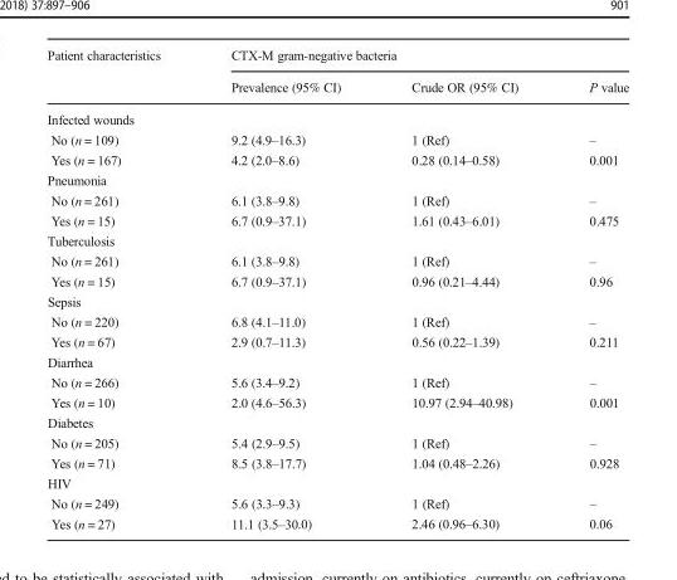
<table><thead><tr><td rowspan="2">Patient characteristics</td><td colspan="3">CTX-M gram-negative bacteria</td></tr><tr><td>Prevalence (95% CI)</td><td>Crude OR (95% CI)</td><td>P value</td></tr></thead><tbody><tr><td colspan="4">Infected wounds</td></tr><tr><td>No (n = 109)</td><td>9.2 (4.9–16.3)</td><td>1 (Ref)</td><td>–</td></tr><tr><td>Yes (n = 167)</td><td>4.2 (2.0–8.6)</td><td>0.28 (0.14–0.58)</td><td>0.001</td></tr><tr><td colspan="4">Pneumonia</td></tr><tr><td>No (n = 261)</td><td>6.1 (3.8–9.8)</td><td>1 (Ref)</td><td>–</td></tr><tr><td>Yes (n = 15)</td><td>6.7 (0.9–37.1)</td><td>1.61 (0.43–6.01)</td><td>0.475</td></tr><tr><td colspan="4">Tuberculosis</td></tr><tr><td>No (n = 261)</td><td>6.1 (3.8–9.8)</td><td>1 (Ref)</td><td>–</td></tr><tr><td>Yes (n = 15)</td><td>6.7 (0.9–37.1)</td><td>0.96 (0.21–4.44)</td><td>0.96</td></tr><tr><td colspan="4">Sepsis</td></tr><tr><td>No (n = 220)</td><td>6.8 (4.1–11.0)</td><td>1 (Ref)</td><td>–</td></tr><tr><td>Yes (n = 67)</td><td>2.9 (0.7–11.3)</td><td>0.56 (0.22–1.39)</td><td>0.211</td></tr><tr><td colspan="4">Diarrhea</td></tr><tr><td>No (n = 266)</td><td>5.6 (3.4–9.2)</td><td>1 (Ref)</td><td>–</td></tr><tr><td>Yes (n = 10)</td><td>2.0 (4.6–56.3)</td><td>10.97 (2.94–40.98)</td><td>0.001</td></tr><tr><td colspan="4">Diabetes</td></tr><tr><td>No (n = 205)</td><td>5.4 (2.9–9.5)</td><td>1 (Ref)</td><td>–</td></tr><tr><td>Yes (n = 71)</td><td>8.5 (3.8–17.7)</td><td>1.04 (0.48–2.26)</td><td>0.928</td></tr><tr><td colspan="4">HIV</td></tr><tr><td>No (n = 249)</td><td>5.6 (3.3–9.3)</td><td>1 (Ref)</td><td>–</td></tr><tr><td>Yes (n = 27)</td><td>11.1 (3.5–30.0)</td><td>2.46 (0.96–6.30)</td><td>0.06</td></tr></tbody></table>